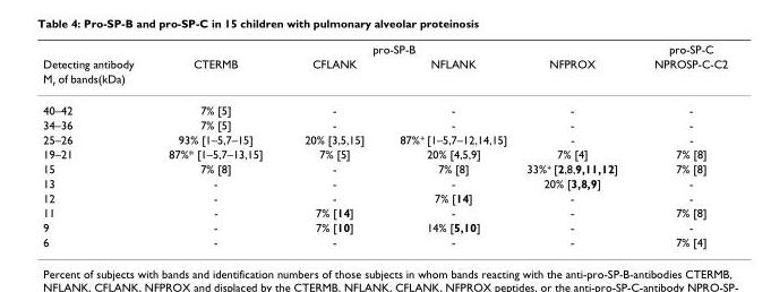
<table><thead><tr><td rowspan="3">Detecting antibody M<sub>r</sub> of bands(kDa)</td><td colspan="4">pro-SP-B</td><td rowspan="3">pro-SP-C NPROSP-C-C2</td></tr><tr><td rowspan="2">CTERMB</td><td rowspan="2">CFLANK</td><td rowspan="2">NFLANK</td><td rowspan="2">NFPROX</td></tr><tr></tr></thead><tbody><tr><td>40–42</td><td>7% [5]</td><td>-</td><td>-</td><td>-</td><td>-</td></tr><tr><td>34–36</td><td>7% [5]</td><td>-</td><td>-</td><td>-</td><td>-</td></tr><tr><td>25–26</td><td>93% [1–5,7–15]</td><td>20% [3,5,15]</td><td>87%<sup>+</sup> [1–5,7–12,14,15]</td><td>-</td><td>-</td></tr><tr><td>19–21</td><td>87%* [1–5,7–13,15]</td><td>7% [5]</td><td>20% [4,5,9]</td><td>7% [4]</td><td>7% [8]</td></tr><tr><td>15</td><td>7% [8]</td><td>-</td><td>7% [8]</td><td>33%<sup>+</sup> [2,8,9,11,12]</td><td>7% [8]</td></tr><tr><td>13</td><td>-</td><td>-</td><td>-</td><td>20% [3,8,9]</td><td>-</td></tr><tr><td>12</td><td>-</td><td>-</td><td>7% [14]</td><td>-</td><td>-</td></tr><tr><td>11</td><td>-</td><td>7% [14]</td><td>-</td><td>-</td><td>7% [8]</td></tr><tr><td>9</td><td>-</td><td>7% [10]</td><td>14% [5,10]</td><td>-</td><td>-</td></tr><tr><td>6</td><td>-</td><td>-</td><td>-</td><td>-</td><td>7% [4]</td></tr></tbody></table>